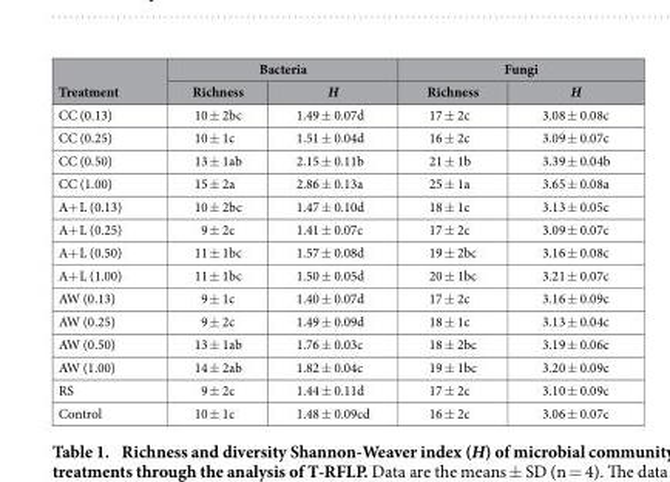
<table><thead><tr><td rowspan="2">Treatment</td><td colspan="2">Bacteria</td><td colspan="2">Fungi</td></tr><tr><td>Richness</td><td>H</td><td>Richness</td><td>H</td></tr></thead><tbody><tr><td>CC (0.13)</td><td>10 ± 2bc</td><td>1.49 ± 0.07d</td><td>17 ± 2c</td><td>3.08 ± 0.08c</td></tr><tr><td>CC (0.25)</td><td>10 ± 1c</td><td>1.51 ± 0.04d</td><td>16 ± 2c</td><td>3.09 ± 0.07c</td></tr><tr><td>CC (0.50)</td><td>13 ± 1ab</td><td>2.15 ± 0.11b</td><td>21 ± 1b</td><td>3.39 ± 0.04b</td></tr><tr><td>CC (1.00)</td><td>15 ± 2a</td><td>2.86 ± 0.13a</td><td>25 ± 1a</td><td>3.65 ± 0.08a</td></tr><tr><td>A+ L (0.13)</td><td>10 ± 2bc</td><td>1.47 ± 0.10d</td><td>18 ± 1c</td><td>3.13 ± 0.05c</td></tr><tr><td>A+ L (0.25)</td><td>9 ± 2c</td><td>1.41 ± 0.07c</td><td>17 ± 2c</td><td>3.09 ± 0.07c</td></tr><tr><td>A+ L (0.50)</td><td>11 ± 1bc</td><td>1.57 ± 0.08d</td><td>19 ± 2bc</td><td>3.16 ± 0.08c</td></tr><tr><td>A+ L (1.00)</td><td>11 ± 1bc</td><td>1.50 ± 0.05d</td><td>20 ± 1bc</td><td>3.21 ± 0.07c</td></tr><tr><td>AW (0.13)</td><td>9 ± 1c</td><td>1.40 ± 0.07d</td><td>17 ± 2c</td><td>3.16 ± 0.09c</td></tr><tr><td>AW (0.25)</td><td>9 ± 2c</td><td>1.49 ± 0.09d</td><td>18 ± 1c</td><td>3.13 ± 0.04c</td></tr><tr><td>AW (0.50)</td><td>13 ± 1ab</td><td>1.76 ± 0.03c</td><td>18 ± 2bc</td><td>3.19 ± 0.06c</td></tr><tr><td>AW (1.00)</td><td>14 ± 2ab</td><td>1.82 ± 0.04c</td><td>19 ± 1bc</td><td>3.20 ± 0.09c</td></tr><tr><td>RS</td><td>9 ± 2c</td><td>1.44 ± 0.11d</td><td>17 ± 2c</td><td>3.10 ± 0.09c</td></tr><tr><td>Control</td><td>10 ± 1c</td><td>1.48 ± 0.09cd</td><td>16 ± 2c</td><td>3.06 ± 0.07c</td></tr></tbody></table>